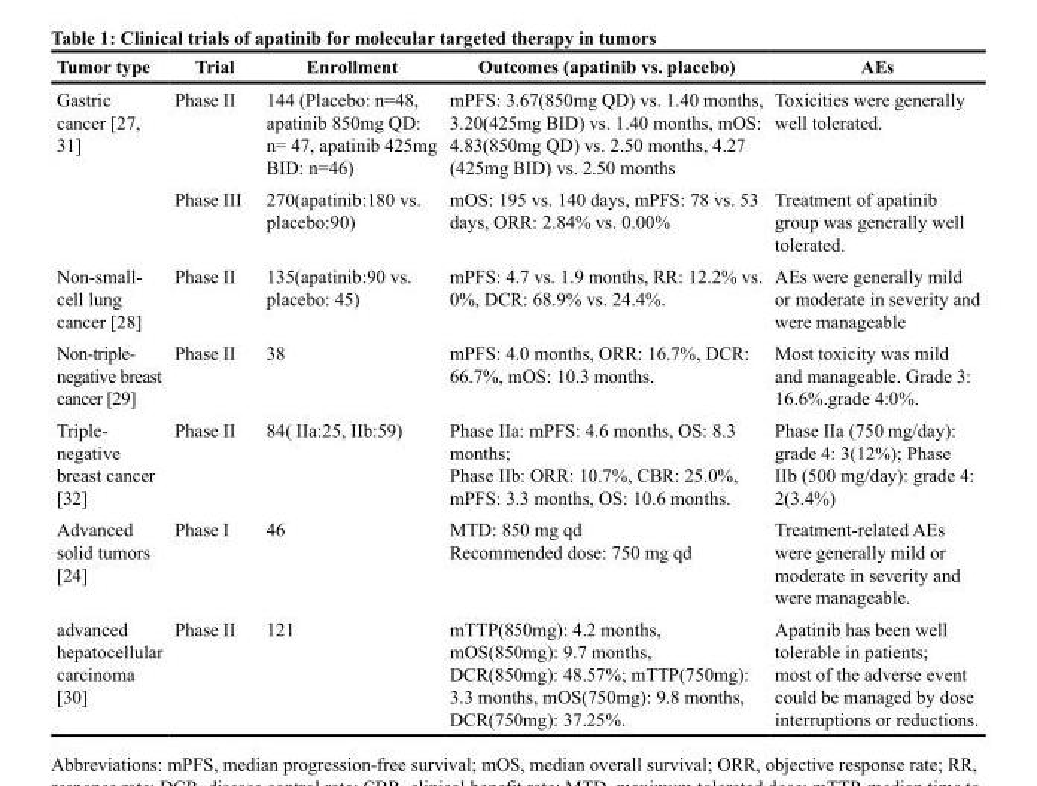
<table><thead><tr><td>Tumor type</td><td>Trial</td><td>Enrollment</td><td>Outcomes (apatinib vs. placebo)</td><td>AEs</td></tr></thead><tbody><tr><td rowspan="2">Gastric cancer [27, 31]</td><td>Phase II</td><td>144 (Placebo: n=48, apatinib 850mg QD: n= 47, apatinib 425mg BID: n=46)</td><td>mPFS: 3.67(850mg QD) vs. 1.40 months, 3.20(425mg BID) vs. 1.40 months, mOS: 4.83(850mg QD) vs. 2.50 months, 4.27 (425mg BID) vs. 2.50 months</td><td>Toxicities were generally well tolerated.</td></tr><tr><td>Phase III</td><td>270(apatinib:180 vs. placebo:90)</td><td>mOS: 195 vs. 140 days, mPFS: 78 vs. 53 days, ORR: 2.84% vs. 0.00%</td><td>Treatment of apatinib group was generally well tolerated.</td></tr><tr><td>Non-small- cell lung cancer [28]</td><td>Phase II</td><td>135(apatinib:90 vs. placebo: 45)</td><td>mPFS: 4.7 vs. 1.9 months, RR: 12.2% vs. 0%, DCR: 68.9% vs. 24.4%.</td><td>AEs were generally mild or moderate in severity and were manageable</td></tr><tr><td>Non-triple- negative breast cancer [29]</td><td>Phase II</td><td>38</td><td>mPFS: 4.0 months, ORR: 16.7%, DCR: 66.7%, mOS: 10.3 months.</td><td>Most toxicity was mild and manageable. Grade 3: 16.6%.grade 4:0%.</td></tr><tr><td>Triple- negative breast cancer [32]</td><td>Phase II</td><td>84( IIa:25, IIb:59)</td><td>Phase IIa: mPFS: 4.6 months, OS: 8.3 months; Phase IIb: ORR: 10.7%, CBR: 25.0%, mPFS: 3.3 months, OS: 10.6 months.</td><td>Phase IIa (750 mg/day): grade 4: 3(12%); Phase IIb (500 mg/day): grade 4: 2(3.4%)</td></tr><tr><td>Advanced solid tumors [24]</td><td>Phase I</td><td>46</td><td>MTD: 850 mg qd Recommended dose: 750 mg qd</td><td>Treatment-related AEs were generally mild or moderate in severity and were manageable.</td></tr><tr><td>advanced hepatocellular carcinoma [30]</td><td>Phase II</td><td>121</td><td>mTTP(850mg): 4.2 months, mOS(850mg): 9.7 months, DCR(850mg): 48.57%; mTTP(750mg): 3.3 months, mOS(750mg): 9.8 months, DCR(750mg): 37.25%.</td><td>Apatinib has been well tolerable in patients; most of the adverse event could be managed by dose interruptions or reductions.</td></tr></tbody></table>